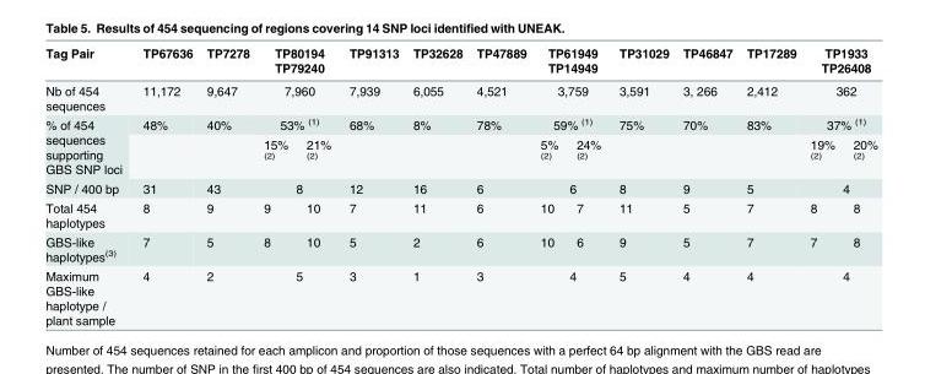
<table><thead><tr><td rowspan="4">Tag Pair Nb of 454 sequences % of 454 sequences supporting GBS SNP loci</td><td rowspan="4">TP67636 11,172 48%</td><td rowspan="4">TP7278 9,647 40%</td><td rowspan="3" colspan="2">TP80194 TP79240 7,960 53% <sup>(1)</sup></td><td rowspan="4">TP91313 7,939 68%</td><td rowspan="4">TP32628 6,055 8%</td><td rowspan="4">TP47889 4,521 78%</td><td rowspan="3" colspan="2">TP61949 TP14949 3,759 59% <sup>(1)</sup></td><td rowspan="4">TP31029 3,591 75%</td><td rowspan="4">TP46847 3, 266 70%</td><td rowspan="4">TP17289 2,412 83%</td><td rowspan="3" colspan="2">TP1933 TP26408 362 37% <sup>(1)</sup></td></tr><tr></tr><tr></tr><tr><td>15% <sup>(2)</sup></td><td>21% <sup>(2)</sup></td><td>5% <sup>(2)</sup></td><td>24% <sup>(2)</sup></td><td>19% <sup>(2)</sup></td><td>20% <sup>(2)</sup></td></tr></thead><tbody><tr><td>SNP / 400 bp</td><td>31</td><td>43</td><td colspan="2">8</td><td>12</td><td>16</td><td>6</td><td colspan="2">6</td><td>8</td><td>9</td><td>5</td><td colspan="2">4</td></tr><tr><td>Total 454 haplotypes</td><td>8</td><td>9</td><td>9</td><td>10</td><td>7</td><td>11</td><td>6</td><td>10</td><td>7</td><td>11</td><td>5</td><td>7</td><td>8</td><td>8</td></tr><tr><td>GBS-like haplotypes<sup>(3)</sup></td><td>7</td><td>5</td><td>8</td><td>10</td><td>5</td><td>2</td><td>6</td><td>10</td><td>6</td><td>9</td><td>5</td><td>7</td><td>7</td><td>8</td></tr><tr><td>Maximum GBS-like haplotype / plant sample</td><td>4</td><td>2</td><td colspan="2">5</td><td>3</td><td>1</td><td>3</td><td colspan="2">4</td><td>5</td><td>4</td><td>4</td><td colspan="2">4</td></tr></tbody></table>